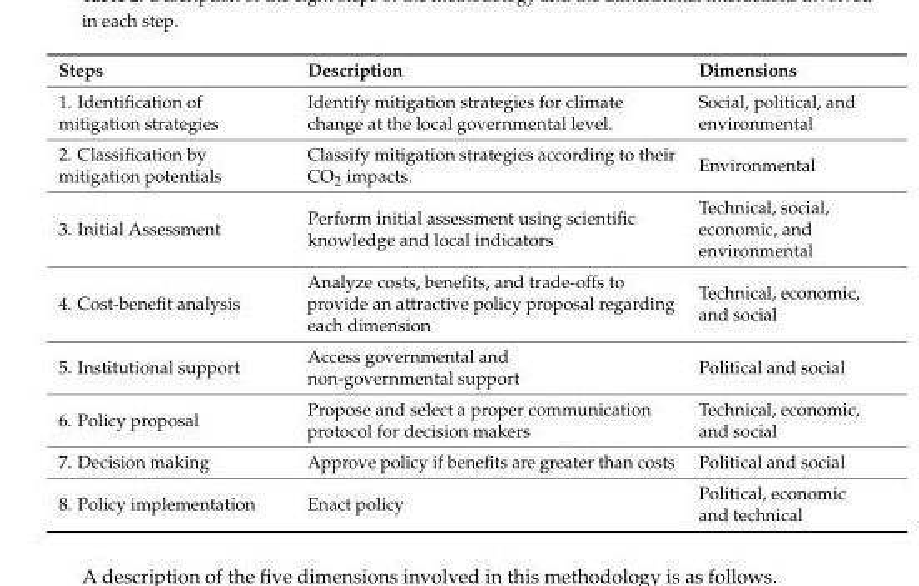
<table><thead><tr><td>Steps</td><td>Description</td><td>Dimensions</td></tr></thead><tbody><tr><td>1. Identification of mitigation strategies</td><td>Identify mitigation strategies for climate change at the local governmental level.</td><td>Social, political, and environmental</td></tr><tr><td>2. Classification by mitigation potentials</td><td>Classify mitigation strategies according to their CO<sub>2</sub> impacts.</td><td>Environmental</td></tr><tr><td>3. Initial Assessment</td><td>Perform initial assessment using scientific knowledge and local indicators</td><td>Technical, social, economic, and environmental</td></tr><tr><td>4. Cost-benefit analysis</td><td>Analyze costs, benefits, and trade-offs to provide an attractive policy proposal regarding each dimension</td><td>Technical, economic, and social</td></tr><tr><td>5. Institutional support</td><td>Access governmental and non-governmental support</td><td>Political and social</td></tr><tr><td>6. Policy proposal</td><td>Propose and select a proper communication protocol for decision makers</td><td>Technical, economic, and social</td></tr><tr><td>7. Decision making</td><td>Approve policy if benefits are greater than costs</td><td>Political and social</td></tr><tr><td>8. Policy implementation</td><td>Enact policy</td><td>Political, economic and technical</td></tr></tbody></table>